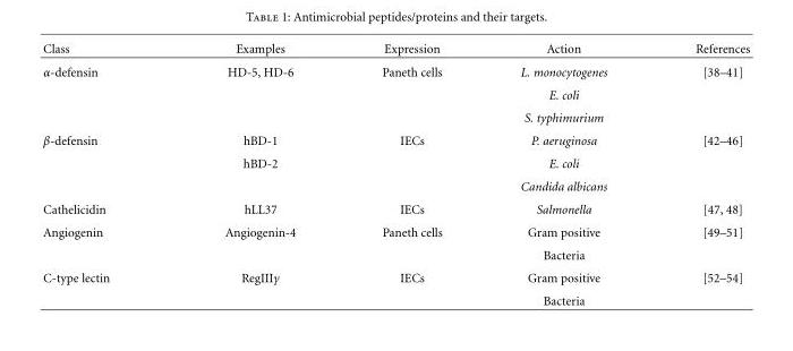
<table><thead><tr><td>Class</td><td>Examples</td><td>Expression</td><td>Action</td><td>References</td></tr></thead><tbody><tr><td rowspan="3">α-defensin</td><td>HD-5, HD-6</td><td>Paneth cells</td><td>L. monocytogenes</td><td>[38–41]</td></tr><tr><td></td><td></td><td>E. coli</td><td></td></tr><tr><td></td><td></td><td>S. typhimurium</td><td></td></tr><tr><td rowspan="3">β-defensin</td><td>hBD-1</td><td>IECs</td><td>P. aeruginosa</td><td>[42–46]</td></tr><tr><td>hBD-2</td><td></td><td>E. coli</td><td></td></tr><tr><td></td><td></td><td>Candida albicans</td><td></td></tr><tr><td>Cathelicidin</td><td>hLL37</td><td>IECs</td><td>Salmonella</td><td>[47, 48]</td></tr><tr><td rowspan="2">Angiogenin</td><td>Angiogenin-4</td><td>Paneth cells</td><td>Gram positive</td><td>[49–51]</td></tr><tr><td></td><td></td><td>Bacteria</td><td></td></tr><tr><td rowspan="2">C-type lectin</td><td>RegIIIγ</td><td>IECs</td><td>Gram positive</td><td>[52–54]</td></tr><tr><td></td><td></td><td>Bacteria</td><td></td></tr></tbody></table>